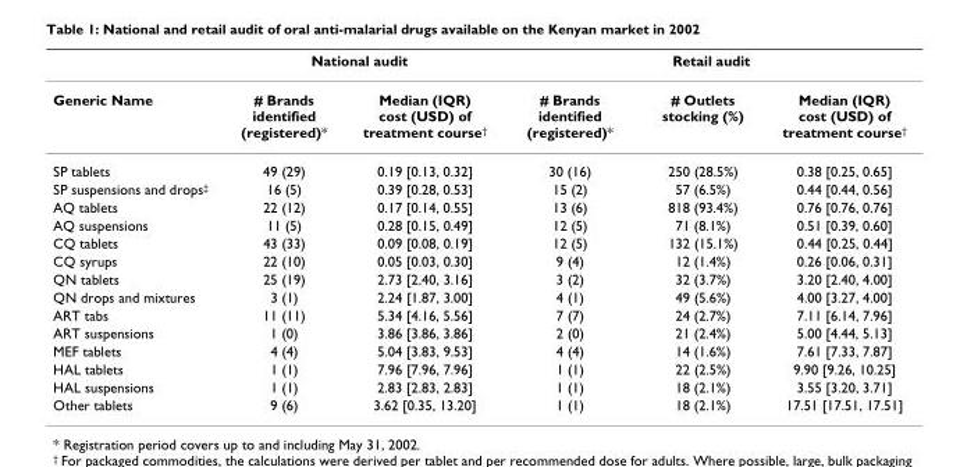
<table><thead><tr><td rowspan="2">Generic Name</td><td colspan="2">National audit</td><td colspan="3">Retail audit</td></tr><tr><td># Brands identified (registered)*</td><td>Median (IQR) cost (USD) of treatment course<sup>†</sup></td><td># Brands identified (registered)*</td><td># Outlets stocking (%)</td><td>Median (IQR) cost (USD) of treatment course<sup>†</sup></td></tr></thead><tbody><tr><td>SP tablets</td><td>49 (29)</td><td>0.19 [0.13, 0.32]</td><td>30 (16)</td><td>250 (28.5%)</td><td>0.38 [0.25, 0.65]</td></tr><tr><td>SP suspensions and drops<sup>‡</sup></td><td>16 (5)</td><td>0.39 [0.28, 0.53]</td><td>15 (2)</td><td>57 (6.5%)</td><td>0.44 [0.44, 0.56]</td></tr><tr><td>AQ tablets</td><td>22 (12)</td><td>0.17 [0.14, 0.55]</td><td>13 (6)</td><td>818 (93.4%)</td><td>0.76 [0.76, 0.76]</td></tr><tr><td>AQ suspensions</td><td>11 (5)</td><td>0.28 [0.15, 0.49]</td><td>12 (5)</td><td>71 (8.1%)</td><td>0.51 [0.39, 0.60]</td></tr><tr><td>CQ tablets</td><td>43 (33)</td><td>0.09 [0.08, 0.19]</td><td>12 (5)</td><td>132 (15.1%)</td><td>0.44 [0.25, 0.44]</td></tr><tr><td>CQ syrups</td><td>22 (10)</td><td>0.05 [0.03, 0.30]</td><td>9 (4)</td><td>12 (1.4%)</td><td>0.26 [0.06, 0.31]</td></tr><tr><td>QN tablets</td><td>25 (19)</td><td>2.73 [2.40, 3.16]</td><td>3 (2)</td><td>32 (3.7%)</td><td>3.20 [2.40, 4.00]</td></tr><tr><td>QN drops and mixtures</td><td>3 (1)</td><td>2.24 [1.87, 3.00]</td><td>4 (1)</td><td>49 (5.6%)</td><td>4.00 [3.27, 4.00]</td></tr><tr><td>ART tabs</td><td>11 (11)</td><td>5.34 [4.16, 5.56]</td><td>7 (7)</td><td>24 (2.7%)</td><td>7.11 [6.14, 7.96]</td></tr><tr><td>ART suspensions</td><td>1 (0)</td><td>3.86 [3.86, 3.86]</td><td>2 (0)</td><td>21 (2.4%)</td><td>5.00 [4.44, 5.13]</td></tr><tr><td>MEF tablets</td><td>4 (4)</td><td>5.04 [3.83, 9.53]</td><td>4 (4)</td><td>14 (1.6%)</td><td>7.61 [7.33, 7.87]</td></tr><tr><td>HAL tablets</td><td>1 (1)</td><td>7.96 [7.96, 7.96]</td><td>1 (1)</td><td>22 (2.5%)</td><td>9.90 [9.26, 10.25]</td></tr><tr><td>HAL suspensions</td><td>1 (1)</td><td>2.83 [2.83, 2.83]</td><td>1 (1)</td><td>18 (2.1%)</td><td>3.55 [3.20, 3.71]</td></tr><tr><td>Other tablets</td><td>9 (6)</td><td>3.62 [0.35, 13.20]</td><td>1 (1)</td><td>18 (2.1%)</td><td>17.51 [17.51, 17.51]</td></tr></tbody></table>